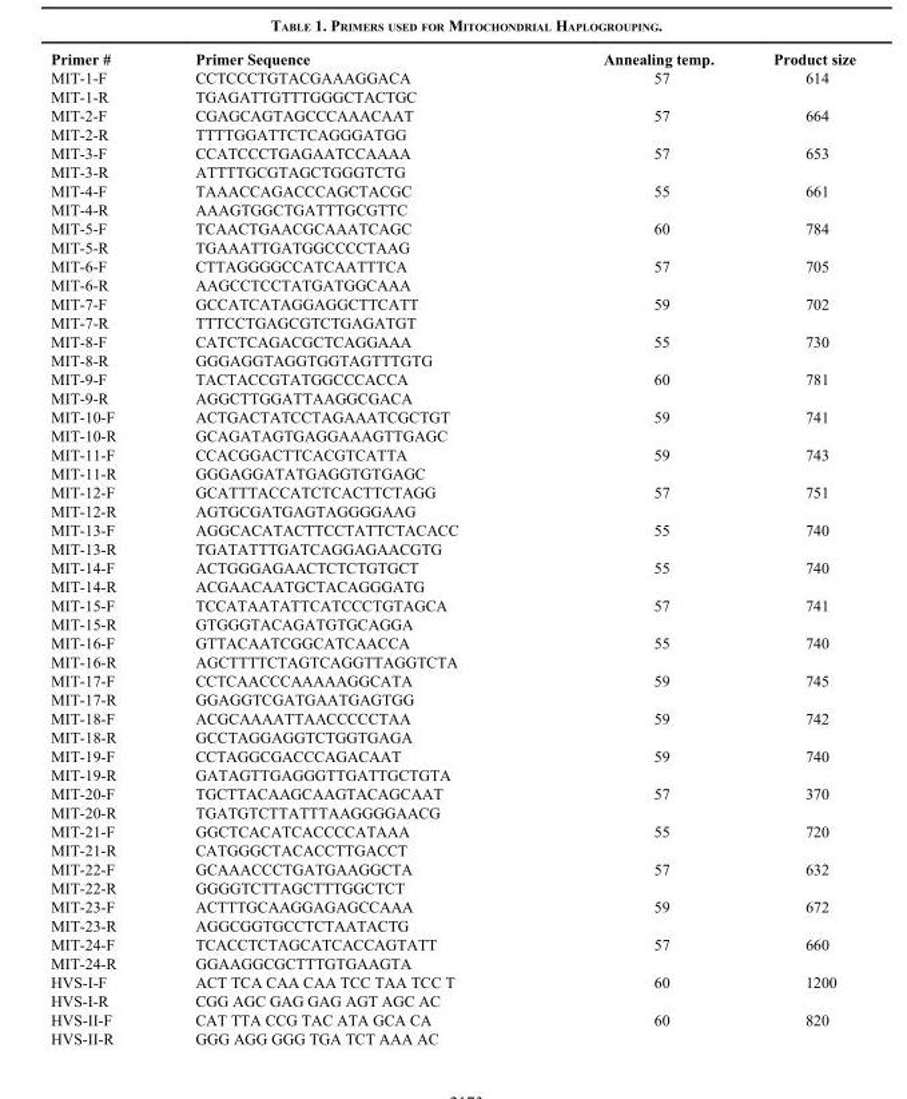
<table><thead><tr><td>Primer #</td><td>Primer Sequence</td><td>Annealing temp.</td><td>Product size</td></tr></thead><tbody><tr><td>MIT-1-F</td><td>CCTCCCTGTACGAAAGGACA</td><td>57</td><td>614</td></tr><tr><td>MIT-1-R</td><td>TGAGATTGTTTGGGCTACTGC</td><td></td><td></td></tr><tr><td>MIT-2-F</td><td>CGAGCAGTAGCCCAAACAAT</td><td>57</td><td>664</td></tr><tr><td>MIT-2-R</td><td>TTTTGGATTCTCAGGGATGG</td><td></td><td></td></tr><tr><td>MIT-3-F</td><td>CCATCCCTGAGAATCCAAAA</td><td>57</td><td>653</td></tr><tr><td>MIT-3-R</td><td>ATTTTGCGTAGCTGGGTCTG</td><td></td><td></td></tr><tr><td>MIT-4-F</td><td>TAAACCAGACCCAGCTACGC</td><td>55</td><td>661</td></tr><tr><td>MIT-4-R</td><td>AAAGTGGCTGATTTGCGTTC</td><td></td><td></td></tr><tr><td>MIT-5-F</td><td>TCAACTGAACGCAAATCAGC</td><td>60</td><td>784</td></tr><tr><td>MIT-5-R</td><td>TGAAATTGATGGCCCCTAAG</td><td></td><td></td></tr><tr><td>MIT-6-F</td><td>CTTAGGGGCCATCAATTTCA</td><td>57</td><td>705</td></tr><tr><td>MIT-6-R</td><td>AAGCCTCCTATGATGGCAAA</td><td></td><td></td></tr><tr><td>MIT-7-F</td><td>GCCATCATAGGAGGCTTCATT</td><td>59</td><td>702</td></tr><tr><td>MIT-7-R</td><td>TTTCCTGAGCGTCTGAGATGT</td><td></td><td></td></tr><tr><td>MIT-8-F</td><td>CATCTCAGACGCTCAGGAAA</td><td>55</td><td>730</td></tr><tr><td>MIT-8-R</td><td>GGGAGGTAGGTGGTAGTTTGTG</td><td></td><td></td></tr><tr><td>MIT-9-F</td><td>TACTACCGTATGGCCCACCA</td><td>60</td><td>781</td></tr><tr><td>MIT-9-R</td><td>AGGCTTGGATTAAGGCGACA</td><td></td><td></td></tr><tr><td>MIT-10-F</td><td>ACTGACTATCCTAGAAATCGCTGT</td><td>59</td><td>741</td></tr><tr><td>MIT-10-R</td><td>GCAGATAGTGAGGAAAGTTGAGC</td><td></td><td></td></tr><tr><td>MIT-11-F</td><td>CCACGGACTTCACGTCATTA</td><td>59</td><td>743</td></tr><tr><td>MIT-11-R</td><td>GGGAGGATATGAGGTGTGAGC</td><td></td><td></td></tr><tr><td>MIT-12-F</td><td>GCATTTACCATCTCACTTCTAGG</td><td>57</td><td>751</td></tr><tr><td>MIT-12-R</td><td>AGTGCGATGAGTAGGGGAAG</td><td></td><td></td></tr><tr><td>MIT-13-F</td><td>AGGCACATACTTCCTATTCTACACC</td><td>55</td><td>740</td></tr><tr><td>MIT-13-R</td><td>TGATATTTGATCAGGAGAACGTG</td><td></td><td></td></tr><tr><td>MIT-14-F</td><td>ACTGGGAGAACTCTCTGTGCT</td><td>55</td><td>740</td></tr><tr><td>MIT-14-R</td><td>ACGAACAATGCTACAGGGATG</td><td></td><td></td></tr><tr><td>MIT-15-F</td><td>TCCATAATATTCATCCCTGTAGCA</td><td>57</td><td>741</td></tr><tr><td>MIT-15-R</td><td>GTGGGTACAGATGTGCAGGA</td><td></td><td></td></tr><tr><td>MIT-16-F</td><td>GTTACAATCGGCATCAACCA</td><td>55</td><td>740</td></tr><tr><td>MIT-16-R</td><td>AGCTTTTCTAGTCAGGTTAGGTCTA</td><td></td><td></td></tr><tr><td>MIT-17-F</td><td>CCTCAACCCAAAAAGGCATA</td><td>59</td><td>745</td></tr><tr><td>MIT-17-R</td><td>GGAGGTCGATGAATGAGTGG</td><td></td><td></td></tr><tr><td>MIT-18-F</td><td>ACGCAAAATTAACCCCCTAA</td><td>59</td><td>742</td></tr><tr><td>MIT-18-R</td><td>GCCTAGGAGGTCTGGTGAGA</td><td></td><td></td></tr><tr><td>MIT-19-F</td><td>CCTAGGCGACCCAGACAAT</td><td>59</td><td>740</td></tr><tr><td>MIT-19-R</td><td>GATAGTTGAGGGTTGATTGCTGTA</td><td></td><td></td></tr><tr><td>MIT-20-F</td><td>TGCTTACAAGCAAGTACAGCAAT</td><td>57</td><td>370</td></tr><tr><td>MIT-20-R</td><td>TGATGTCTTATTTAAGGGGAACG</td><td></td><td></td></tr><tr><td>MIT-21-F</td><td>GGCTCACATCACCCCATAAA</td><td>55</td><td>720</td></tr><tr><td>MIT-21-R</td><td>CATGGGCTACACCTTGACCT</td><td></td><td></td></tr><tr><td>MIT-22-F</td><td>GCAAACCCTGATGAAGGCTA</td><td>57</td><td>632</td></tr><tr><td>MIT-22-R</td><td>GGGGTCTTAGCTTTGGCTCT</td><td></td><td></td></tr><tr><td>MIT-23-F</td><td>ACTTTGCAAGGAGAGCCAAA</td><td>59</td><td>672</td></tr><tr><td>MIT-23-R</td><td>AGGCGGTGCCTCTAATACTG</td><td></td><td></td></tr><tr><td>MIT-24-F</td><td>TCACCTCTAGCATCACCAGTATT</td><td>57</td><td>660</td></tr><tr><td>MIT-24-R</td><td>GGAAGGCGCTTTGTGAAGTA</td><td></td><td></td></tr><tr><td>HVS-I-F</td><td>ACT TCA CAA CAA TCC TAA TCC T</td><td>60</td><td>1200</td></tr><tr><td>HVS-I-R</td><td>CGG AGC GAG GAG AGT AGC AC</td><td></td><td></td></tr><tr><td>HVS-II-F</td><td>CAT TTA CCG TAC ATA GCA CA</td><td>60</td><td>820</td></tr><tr><td>HVS-II-R</td><td>GGG AGG GGG TGA TCT AAA AC</td><td></td><td></td></tr></tbody></table>